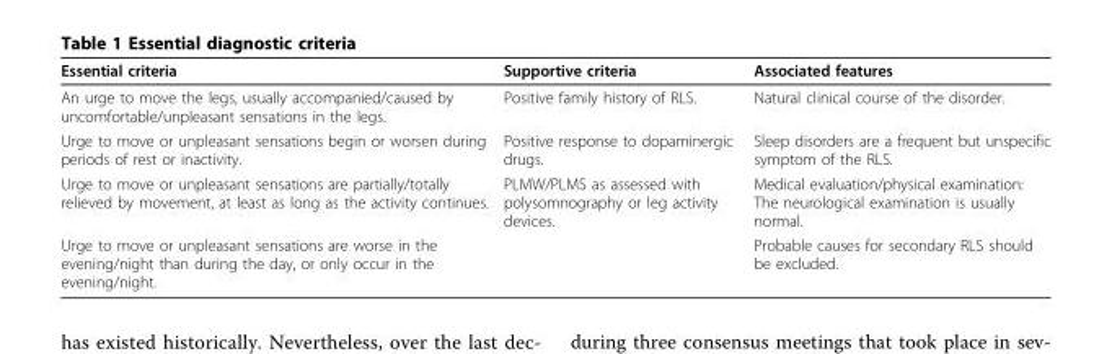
<table><thead><tr><td>Essential criteria</td><td>Supportive criteria</td><td>Associated features</td></tr></thead><tbody><tr><td>An urge to move the legs, usually accompanied/caused by uncomfortable/unpleasant sensations in the legs.</td><td>Positive family history of RLS.</td><td>Natural clinical course of the disorder.</td></tr><tr><td>Urge to move or unpleasant sensations begin or worsen during periods of rest or inactivity.</td><td>Positive response to dopaminergic drugs.</td><td>Sleep disorders are a frequent but unspecific symptom of the RLS.</td></tr><tr><td>Urge to move or unpleasant sensations are partially/totally relieved by movement, at least as long as the activity continues.</td><td>PLMW/PLMS as assessed with polysomnography or leg activity devices.</td><td>Medical evaluation/physical examination: The neurological examination is usually normal.</td></tr><tr><td>Urge to move or unpleasant sensations are worse in the evening/night than during the day, or only occur in the evening/night.</td><td></td><td>Probable causes for secondary RLS should be excluded.</td></tr></tbody></table>